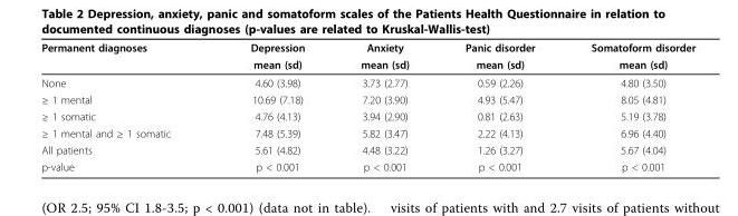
<table><thead><tr><td rowspan="2">Permanent diagnoses</td><td rowspan="2">Depression mean (sd)</td><td rowspan="2">Anxiety mean (sd)</td><td rowspan="2">Panic disorder mean (sd)</td><td rowspan="2">Somatoform disorder mean (sd)</td></tr><tr></tr></thead><tbody><tr><td>None</td><td>4.60 (3.98)</td><td>3.73 (2.77)</td><td>0.59 (2.26)</td><td>4.80 (3.50)</td></tr><tr><td>≥ 1 mental</td><td>10.69 (7.18)</td><td>7.20 (3.90)</td><td>4.93 (5.47)</td><td>8.05 (4.81)</td></tr><tr><td>≥ 1 somatic</td><td>4.76 (4.13)</td><td>3.94 (2.90)</td><td>0.81 (2.63)</td><td>5.19 (3.78)</td></tr><tr><td>≥ 1 mental and ≥ 1 somatic</td><td>7.48 (5.39)</td><td>5.82 (3.47)</td><td>2.22 (4.13)</td><td>6.96 (4.40)</td></tr><tr><td>All patients</td><td>5.61 (4.82)</td><td>4.48 (3.22)</td><td>1.26 (3.27)</td><td>5.67 (4.04)</td></tr><tr><td>p-value</td><td>p &lt; 0.001</td><td>p &lt; 0.001</td><td>p &lt; 0.001</td><td>p &lt; 0.001</td></tr></tbody></table>